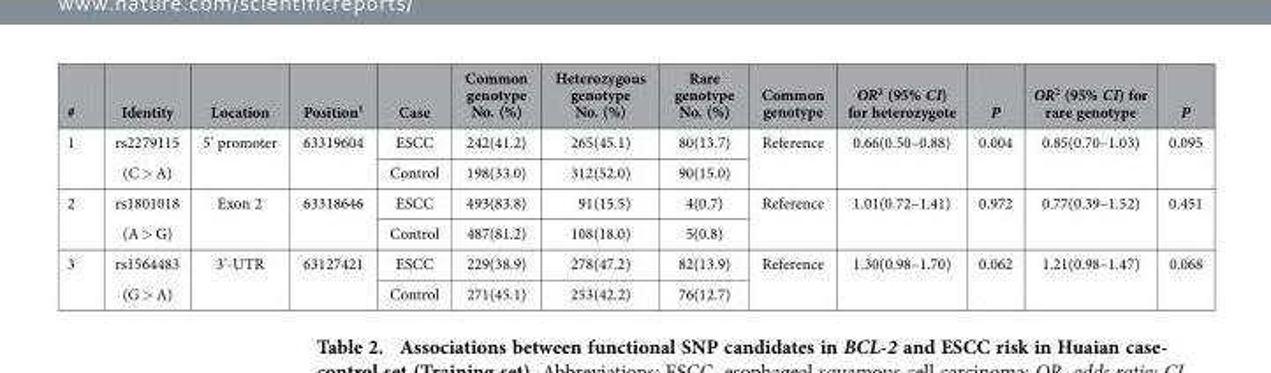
<table><thead><tr><td>#</td><td>Identity</td><td>Location</td><td>Position<sup>1</sup></td><td>Case</td><td>Common genotype No. (%)</td><td>Heterozygous genotype No. (%)</td><td>Rare genotype No. (%)</td><td>Common genotype</td><td>OR<sup>2</sup> (95% CI) for heterozygote</td><td>P</td><td>OR<sup>2</sup> (95% CI) for rare genotype</td><td>P</td></tr></thead><tbody><tr><td rowspan="2">1</td><td>rs2279115</td><td>5&#x27; promoter</td><td>63319604</td><td>ESCC</td><td>242(41.2)</td><td>265(45.1)</td><td>80(13.7)</td><td>Reference</td><td>0.66(0.50–0.88)</td><td>0.004</td><td>0.85(0.70–1.03)</td><td>0.095</td></tr><tr><td>(C &gt; A)</td><td></td><td></td><td>Control</td><td>198(33.0)</td><td>312(52.0)</td><td>90(15.0)</td><td></td><td></td><td></td><td></td><td></td></tr><tr><td rowspan="2">2</td><td>rs1801018</td><td>Exon 2</td><td>63318646</td><td>ESCC</td><td>493(83.8)</td><td>91(15.5)</td><td>4(0.7)</td><td>Reference</td><td>1.01(0.72–1.41)</td><td>0.972</td><td>0.77(0.39–1.52)</td><td>0.451</td></tr><tr><td>(A &gt; G)</td><td></td><td></td><td>Control</td><td>487(81.2)</td><td>108(18.0)</td><td>5(0.8)</td><td></td><td></td><td></td><td></td><td></td></tr><tr><td rowspan="2">3</td><td>rs1564483</td><td>3’-UTR</td><td>63127421</td><td>ESCC</td><td>229(38.9)</td><td>278(47.2)</td><td>82(13.9)</td><td>Reference</td><td>1.30(0.98–1.70)</td><td>0.062</td><td>1.21(0.98–1.47)</td><td>0.068</td></tr><tr><td>(G &gt; A)</td><td></td><td></td><td>Control</td><td>271(45.1)</td><td>253(42.2)</td><td>76(12.7)</td><td></td><td></td><td></td><td></td><td></td></tr></tbody></table>